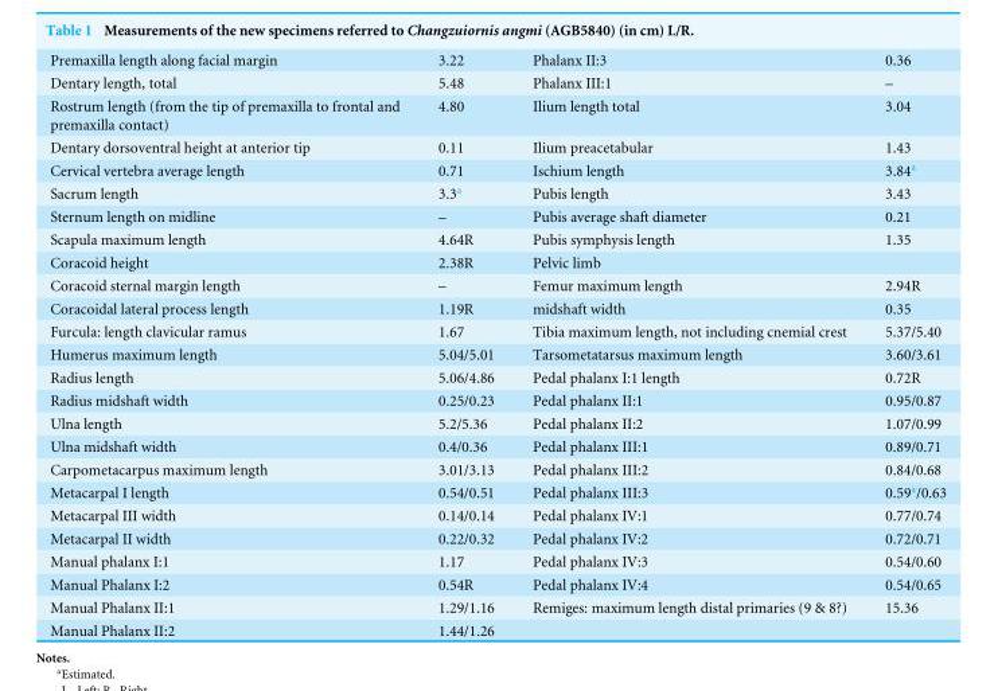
<table><tbody><tr><td>Premaxilla length along facial margin</td><td>3.22</td><td>Phalanx II:3</td><td>0.36</td></tr><tr><td>Dentary length, total</td><td>5.48</td><td>Phalanx III:1</td><td>–</td></tr><tr><td>Rostrum length (from the tip of premaxilla to frontal and premaxilla contact)</td><td>4.80</td><td>Ilium length total</td><td>3.04</td></tr><tr><td>Dentary dorsoventral height at anterior tip</td><td>0.11</td><td>Ilium preacetabular</td><td>1.43</td></tr><tr><td>Cervical vertebra average length</td><td>0.71</td><td>Ischium length</td><td>3.84<sup>a</sup></td></tr><tr><td>Sacrum length</td><td>3.3<sup>a</sup></td><td>Pubis length</td><td>3.43</td></tr><tr><td>Sternum length on midline</td><td>–</td><td>Pubis average shaft diameter</td><td>0.21</td></tr><tr><td>Scapula maximum length</td><td>4.64R</td><td>Pubis symphysis length</td><td>1.35</td></tr><tr><td>Coracoid height</td><td>2.38R</td><td>Pelvic limb</td><td></td></tr><tr><td>Coracoid sternal margin length</td><td>–</td><td>Femur maximum length</td><td>2.94R</td></tr><tr><td>Coracoidal lateral process length</td><td>1.19R</td><td>midshaft width</td><td>0.35</td></tr><tr><td>Furcula: length clavicular ramus</td><td>1.67</td><td>Tibia maximum length, not including cnemial crest</td><td>5.37/5.40</td></tr><tr><td>Humerus maximum length</td><td>5.04/5.01</td><td>Tarsometatarsus maximum length</td><td>3.60/3.61</td></tr><tr><td>Radius length</td><td>5.06/4.86</td><td>Pedal phalanx I:1 length</td><td>0.72R</td></tr><tr><td>Radius midshaft width</td><td>0.25/0.23</td><td>Pedal phalanx II:1</td><td>0.95/0.87</td></tr><tr><td>Ulna length</td><td>5.2/5.36</td><td>Pedal phalanx II:2</td><td>1.07/0.99</td></tr><tr><td>Ulna midshaft width</td><td>0.4/0.36</td><td>Pedal phalanx III:1</td><td>0.89/0.71</td></tr><tr><td>Carpometacarpus maximum length</td><td>3.01/3.13</td><td>Pedal phalanx III:2</td><td>0.84/0.68</td></tr><tr><td>Metacarpal I length</td><td>0.54/0.51</td><td>Pedal phalanx III:3</td><td>0.59<sup>a</sup>/0.63</td></tr><tr><td>Metacarpal III width</td><td>0.14/0.14</td><td>Pedal phalanx IV:1</td><td>0.77/0.74</td></tr><tr><td>Metacarpal II width</td><td>0.22/0.32</td><td>Pedal phalanx IV:2</td><td>0.72/0.71</td></tr><tr><td>Manual phalanx I:1</td><td>1.17</td><td>Pedal phalanx IV:3</td><td>0.54/0.60</td></tr><tr><td>Manual Phalanx I:2</td><td>0.54R</td><td>Pedal phalanx IV:4</td><td>0.54/0.65</td></tr><tr><td>Manual Phalanx II:1</td><td>1.29/1.16</td><td>Remiges: maximum length distal primaries (9 &amp; 8?)</td><td>15.36</td></tr><tr><td>Manual Phalanx II:2</td><td>1.44/1.26</td><td></td><td></td></tr></tbody></table>